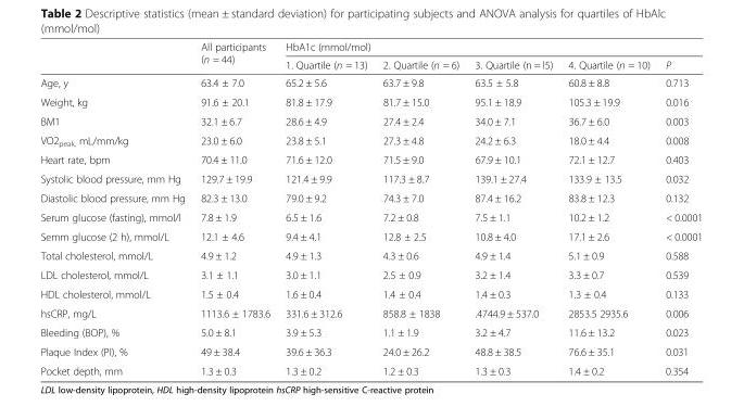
<table><thead><tr><td rowspan="2"></td><td rowspan="2">All participants (n = 44)</td><td colspan="5">HbA1c (mmol/mol)</td></tr><tr><td>1. Quartile (n = 13)</td><td>2. Quartile (n = 6)</td><td>3. Quartile (n = l5)</td><td>4. Quartile (n = 10)</td><td>P</td></tr></thead><tbody><tr><td>Age, y</td><td>63.4 ± 7.0</td><td>65.2 ± 5.6</td><td>63.7 ± 9.8</td><td>63.5 ± 5.8</td><td>60.8 ± 8.8</td><td>0.713</td></tr><tr><td>Weight, kg</td><td>91.6 ± 20.1</td><td>81.8 ± 17.9</td><td>81.7 ± 15.0</td><td>95.1 ± 18.9</td><td>105.3 ± 19.9</td><td>0.016</td></tr><tr><td>BM1</td><td>32.1 ± 6.7</td><td>28.6 ± 4.9</td><td>27.4 ± 2.4</td><td>34.0 ± 7.1</td><td>36.7 ± 6.0</td><td>0.003</td></tr><tr><td>VO2<sub>peak,</sub> mL/mm/kg</td><td>23.0 ± 6.0</td><td>23.8 ± 5.1</td><td>27.3 ± 4.8</td><td>24.2 ± 6.3</td><td>18.0 ± 4.4</td><td>0.008</td></tr><tr><td>Heart rate, bpm</td><td>70.4 ± 11.0</td><td>71.6 ± 12.0</td><td>71.5 ± 9.0</td><td>67.9 ± 10.1</td><td>72.1 ± 12.7</td><td>0.403</td></tr><tr><td>Systolic blood pressure, mm Hg</td><td>129.7 ± 19.9</td><td>121.4 ± 9.9</td><td>117.3 ± 8.7</td><td>139.1 ± 27.4</td><td>133.9 ± 13.5</td><td>0.032</td></tr><tr><td>Diastolic blood pressure, mm Hg</td><td>82.3 ± 13.0</td><td>79.0 ± 9.2</td><td>74.3 ± 7.0</td><td>87.4 ± 16.2</td><td>83.8 ± 12.3</td><td>0.132</td></tr><tr><td>Serum glucose (fasting), mmol/l</td><td>7.8 ± 1.9</td><td>6.5 ± 1.6</td><td>7.2 ± 0.8</td><td>7.5 ± 1.1</td><td>10.2 ± 1.2</td><td>&lt; 0.0001</td></tr><tr><td>Semm glucose (2 h), mmol/L</td><td>12.1 ± 4.6</td><td>9.4 ± 4.1</td><td>12.8 ± 2.5</td><td>10.8 ± 4.0</td><td>17.1 ± 2.6</td><td>&lt; 0.0001</td></tr><tr><td>Total cholesterol, mmol/L</td><td>4.9 ± 1.2</td><td>4.9 ± 1.3</td><td>4.3 ± 0.6</td><td>4.9 ± 1.4</td><td>5.1 ± 0.9</td><td>0.588</td></tr><tr><td>LDL cholesterol, mmol/L</td><td>3.1 ± 1.1</td><td>3.0 ± 1.1</td><td>2.5 ± 0.9</td><td>3.2 ± 1.4</td><td>3.3 ± 0.7</td><td>0.539</td></tr><tr><td>HDL cholesterol, mmol/L</td><td>1.5 ± 0.4</td><td>1.6 ± 0.4</td><td>1.4 ± 0.4</td><td>1.4 ± 0.3</td><td>1.3 ± 0.4</td><td>0.133</td></tr><tr><td>hsCRP, mg/L</td><td>1113.6 ± 1783.6</td><td>331.6 ± 312.6</td><td>858.8 ± 1838</td><td>.4744.9 ± 537.0</td><td>2853.5 2935.6</td><td>0.006</td></tr><tr><td>Bleeding (BOP), %</td><td>5.0 ± 8.1</td><td>3.9 ± 5.3</td><td>1.1 ± 1.9</td><td>3.2 ± 4.7</td><td>11.6 ± 13.2</td><td>0.023</td></tr><tr><td>Plaque Index (PI), %</td><td>49 ± 38.4</td><td>39.6 ± 36.3</td><td>24.0 ± 26.2</td><td>48.8 ± 38.5</td><td>76.6 ± 35.1</td><td>0.031</td></tr><tr><td>Pocket depth, mm</td><td>1.3 ± 0.3</td><td>1.3 ± 0.2</td><td>1.2 ± 0.3</td><td>1.3 ± 0.3</td><td>1.4 ± 0.2</td><td>0.354</td></tr></tbody></table>